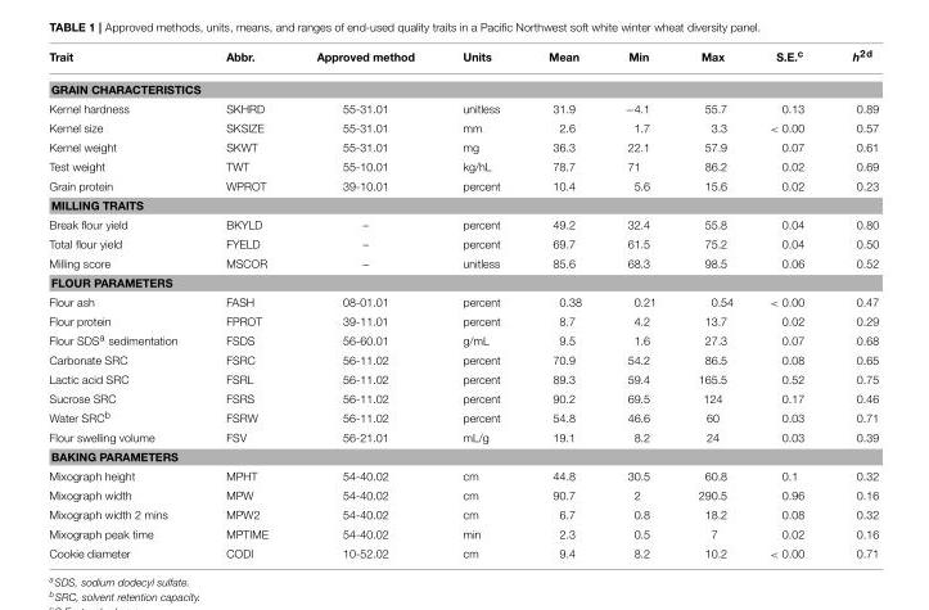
<table><thead><tr><td>Trait</td><td>Abbr.</td><td>Approved method</td><td>Units</td><td>Mean</td><td>Min</td><td>Max</td><td>S.E.<sup>c</sup></td><td>h<sup>2d</sup></td></tr></thead><tbody><tr><td colspan="9">GRAIN CHARACTERISTICS</td></tr><tr><td>Kernel hardness</td><td>SKHRD</td><td>55-31.01</td><td>unitless</td><td>31.9</td><td>−4.1</td><td>55.7</td><td>0.13</td><td>0.89</td></tr><tr><td>Kernel size</td><td>SKSIZE</td><td>55-31.01</td><td>mm</td><td>2.6</td><td>1.7</td><td>3.3</td><td>&lt; 0.00</td><td>0.57</td></tr><tr><td>Kernel weight</td><td>SKWT</td><td>55-31.01</td><td>mg</td><td>36.3</td><td>22.1</td><td>57.9</td><td>0.07</td><td>0.61</td></tr><tr><td>Test weight</td><td>TWT</td><td>55-10.01</td><td>kg/hL</td><td>78.7</td><td>71</td><td>86.2</td><td>0.02</td><td>0.69</td></tr><tr><td>Grain protein</td><td>WPROT</td><td>39-10.01</td><td>percent</td><td>10.4</td><td>5.6</td><td>15.6</td><td>0.02</td><td>0.23</td></tr><tr><td colspan="9">MILLING TRAITS</td></tr><tr><td>Break flour yield</td><td>BKYLD</td><td>–</td><td>percent</td><td>49.2</td><td>32.4</td><td>55.8</td><td>0.04</td><td>0.80</td></tr><tr><td>Total flour yield</td><td>FYELD</td><td>–</td><td>percent</td><td>69.7</td><td>61.5</td><td>75.2</td><td>0.04</td><td>0.50</td></tr><tr><td>Milling score</td><td>MSCOR</td><td>–</td><td>unitless</td><td>85.6</td><td>68.3</td><td>98.5</td><td>0.06</td><td>0.52</td></tr><tr><td colspan="9">FLOUR PARAMETERS</td></tr><tr><td>Flour ash</td><td>FASH</td><td>08-01.01</td><td>percent</td><td>0.38</td><td>0.21</td><td>0.54</td><td>&lt; 0.00</td><td>0.47</td></tr><tr><td>Flour protein</td><td>FPROT</td><td>39-11.01</td><td>percent</td><td>8.7</td><td>4.2</td><td>13.7</td><td>0.02</td><td>0.29</td></tr><tr><td>Flour SDS<sup>a</sup> sedimentation</td><td>FSDS</td><td>56-60.01</td><td>g/mL</td><td>9.5</td><td>1.6</td><td>27.3</td><td>0.07</td><td>0.68</td></tr><tr><td>Carbonate SRC</td><td>FSRC</td><td>56-11.02</td><td>percent</td><td>70.9</td><td>54.2</td><td>86.5</td><td>0.08</td><td>0.65</td></tr><tr><td>Lactic acid SRC</td><td>FSRL</td><td>56-11.02</td><td>percent</td><td>89.3</td><td>59.4</td><td>165.5</td><td>0.52</td><td>0.75</td></tr><tr><td>Sucrose SRC</td><td>FSRS</td><td>56-11.02</td><td>percent</td><td>90.2</td><td>69.5</td><td>124</td><td>0.17</td><td>0.46</td></tr><tr><td>Water SRC<sup>b</sup></td><td>FSRW</td><td>56-11.02</td><td>percent</td><td>54.8</td><td>46.6</td><td>60</td><td>0.03</td><td>0.71</td></tr><tr><td>Flour swelling volume</td><td>FSV</td><td>56-21.01</td><td>mL/g</td><td>19.1</td><td>8.2</td><td>24</td><td>0.03</td><td>0.39</td></tr><tr><td colspan="9">BAKING PARAMETERS</td></tr><tr><td>Mixograph height</td><td>MPHT</td><td>54-40.02</td><td>cm</td><td>44.8</td><td>30.5</td><td>60.8</td><td>0.1</td><td>0.32</td></tr><tr><td>Mixograph width</td><td>MPW</td><td>54-40.02</td><td>cm</td><td>90.7</td><td>2</td><td>290.5</td><td>0.96</td><td>0.16</td></tr><tr><td>Mixograph width 2 mins</td><td>MPW2</td><td>54-40.02</td><td>cm</td><td>6.7</td><td>0.8</td><td>18.2</td><td>0.08</td><td>0.32</td></tr><tr><td>Mixograph peak time</td><td>MPTIME</td><td>54-40.02</td><td>min</td><td>2.3</td><td>0.5</td><td>7</td><td>0.02</td><td>0.16</td></tr><tr><td>Cookie diameter</td><td>CODI</td><td>10-52.02</td><td>cm</td><td>9.4</td><td>8.2</td><td>10.2</td><td>&lt; 0.00</td><td>0.71</td></tr></tbody></table>